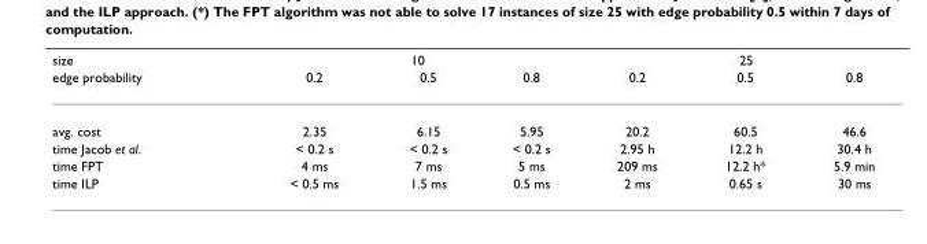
<table><thead><tr><td rowspan="2">size edge probability</td><td colspan="3">10</td><td colspan="3">25</td></tr><tr><td>0.2</td><td>0.5</td><td>0.8</td><td>0.2</td><td>0.5</td><td>0.8</td></tr></thead><tbody><tr><td>avg. cost</td><td>2.35</td><td>6.15</td><td>5.95</td><td>20.2</td><td>60.5</td><td>46.6</td></tr><tr><td>time Jacob et al.</td><td>&lt; 0.2 s</td><td>&lt; 0.2 s</td><td>&lt; 0.2 s</td><td>2.95 h</td><td>12.2 h</td><td>30.4 h</td></tr><tr><td>time FPT</td><td>4 ms</td><td>7 ms</td><td>5 ms</td><td>209 ms</td><td>12.2 h*</td><td>5.9 min</td></tr><tr><td>time ILP</td><td>&lt; 0.5 ms</td><td>1.5 ms</td><td>0.5 ms</td><td>2 ms</td><td>0.65 s</td><td>30 ms</td></tr></tbody></table>